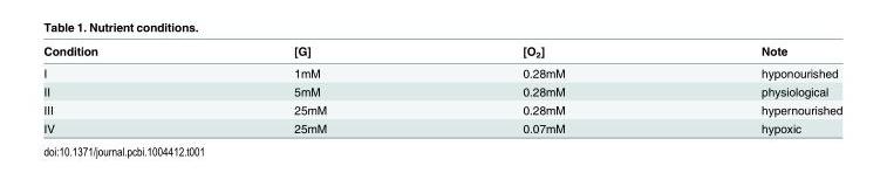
<table><thead><tr><td>Condition</td><td>[G]</td><td>[O<sub>2</sub>]</td><td>Note</td></tr></thead><tbody><tr><td>I</td><td>1mM</td><td>0.28mM</td><td>hyponourished</td></tr><tr><td>II</td><td>5mM</td><td>0.28mM</td><td>physiological</td></tr><tr><td>III</td><td>25mM</td><td>0.28mM</td><td>hypernourished</td></tr><tr><td>IV</td><td>25mM</td><td>0.07mM</td><td>hypoxic</td></tr></tbody></table>